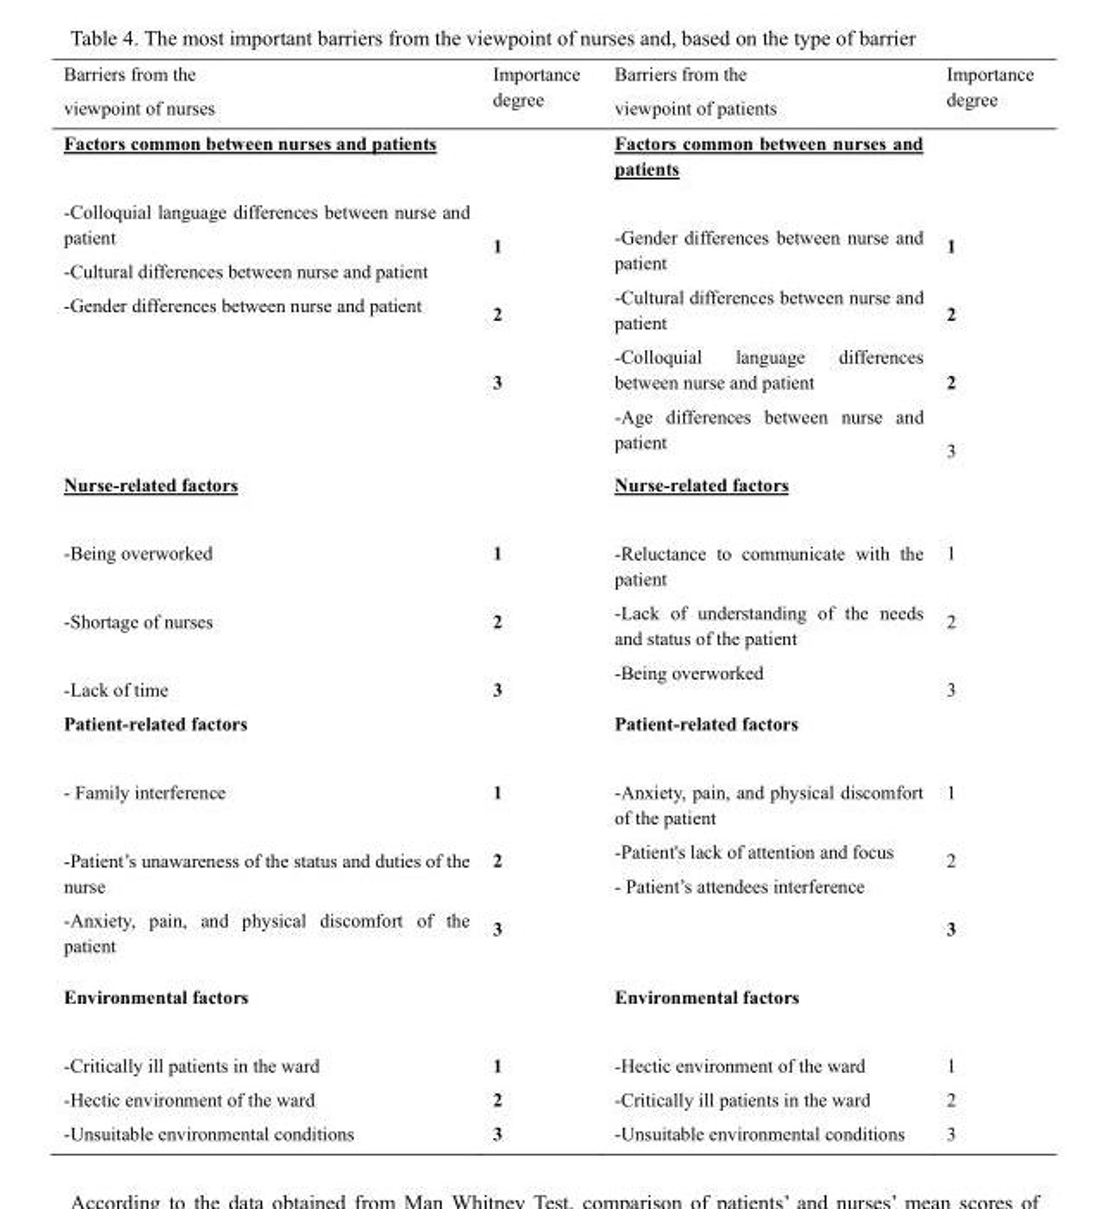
<table><thead><tr><td>Barriers from the viewpoint of nurses</td><td>Importance degree</td><td>Barriers from the viewpoint of patients</td><td>Importance degree</td></tr></thead><tbody><tr><td>Factors common between nurses and patients -Colloquial language differences between nurse and patient -Cultural differences between nurse and patient -Gender differences between nurse and patient</td><td>1 2 3</td><td>Factors common between nurses and patients -Gender differences between nurse and patient -Cultural differences between nurse and patient -Colloquial language differences between nurse and patient -Age differences between nurse and patient</td><td>1 2 2 3</td></tr><tr><td>Nurse-related factors -Being overworked -Shortage of nurses -Lack of time</td><td>1 2 3</td><td>Nurse-related factors -Reluctance to communicate with the patient -Lack of understanding of the needs and status of the patient -Being overworked</td><td>1 2 3</td></tr><tr><td>Patient-related factors - Family interference -Patient’s unawareness of the status and duties of the nurse -Anxiety, pain, and physical discomfort of the patient</td><td>1 2 3</td><td>Patient-related factors -Anxiety, pain, and physical discomfort of the patient -Patient&#x27;s lack of attention and focus - Patient’s attendees interference</td><td>1 2 3</td></tr><tr><td>Environmental factors -Critically ill patients in the ward -Hectic environment of the ward -Unsuitable environmental conditions</td><td>1 2 3</td><td>Environmental factors -Hectic environment of the ward -Critically ill patients in the ward -Unsuitable environmental conditions</td><td>1 2 3</td></tr></tbody></table>